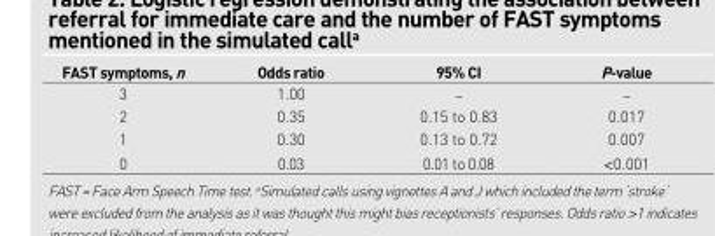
<table><thead><tr><td>FAST symptoms, n</td><td>Odds ratio</td><td>95% CI</td><td>P-value</td></tr></thead><tbody><tr><td>3</td><td>1.00</td><td>–</td><td>–</td></tr><tr><td>2</td><td>0.35</td><td>0.15 to 0.83</td><td>0.017</td></tr><tr><td>1</td><td>0.30</td><td>0.13 to 0.72</td><td>0.007</td></tr><tr><td>0</td><td>0.03</td><td>0.01 to 0.08</td><td>&lt;0.001</td></tr></tbody></table>